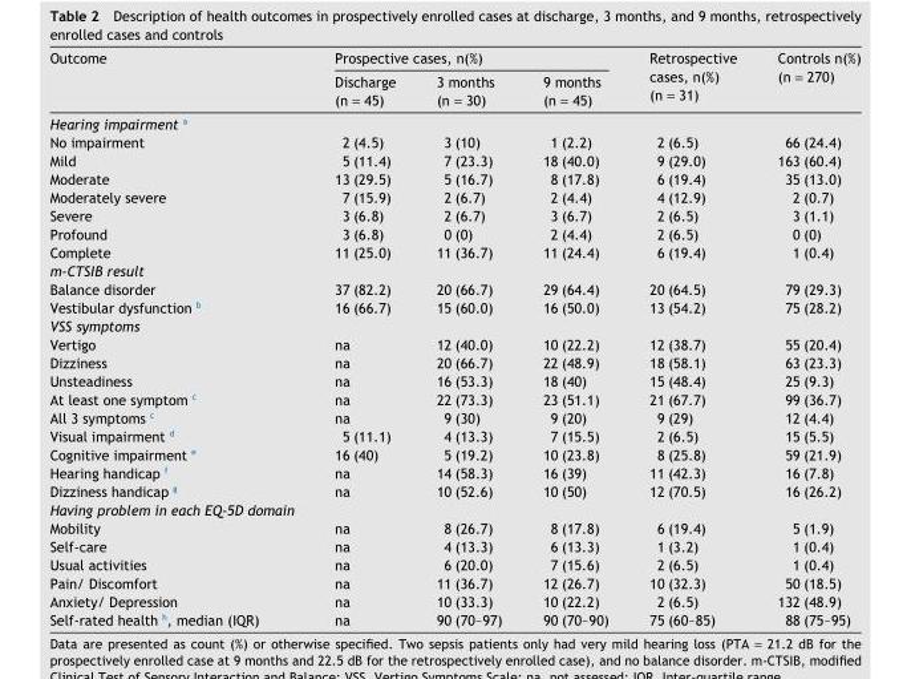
<table><thead><tr><td rowspan="2">Outcome</td><td colspan="3">Prospective cases, n(%)</td><td rowspan="2">Retrospective cases, n(%) (n = 31)</td><td rowspan="2">Controls n(%) (n = 270)</td></tr><tr><td>Discharge (n = 45)</td><td>3 months (n = 30)</td><td>9 months (n = 45)</td></tr></thead><tbody><tr><td colspan="6">Hearing impairment <sup>a</sup></td></tr><tr><td>No impairment</td><td>2 (4.5)</td><td>3 (10)</td><td>1 (2.2)</td><td>2 (6.5)</td><td>66 (24.4)</td></tr><tr><td>Mild</td><td>5 (11.4)</td><td>7 (23.3)</td><td>18 (40.0)</td><td>9 (29.0)</td><td>163 (60.4)</td></tr><tr><td>Moderate</td><td>13 (29.5)</td><td>5 (16.7)</td><td>8 (17.8)</td><td>6 (19.4)</td><td>35 (13.0)</td></tr><tr><td>Moderately severe</td><td>7 (15.9)</td><td>2 (6.7)</td><td>2 (4.4)</td><td>4 (12.9)</td><td>2 (0.7)</td></tr><tr><td>Severe</td><td>3 (6.8)</td><td>2 (6.7)</td><td>3 (6.7)</td><td>2 (6.5)</td><td>3 (1.1)</td></tr><tr><td>Profound</td><td>3 (6.8)</td><td>0 (0)</td><td>2 (4.4)</td><td>2 (6.5)</td><td>0 (0)</td></tr><tr><td>Complete</td><td>11 (25.0)</td><td>11 (36.7)</td><td>11 (24.4)</td><td>6 (19.4)</td><td>1 (0.4)</td></tr><tr><td colspan="6">m-CTSIB result</td></tr><tr><td>Balance disorder</td><td>37 (82.2)</td><td>20 (66.7)</td><td>29 (64.4)</td><td>20 (64.5)</td><td>79 (29.3)</td></tr><tr><td>Vestibular dysfunction b</td><td>16 (66.7)</td><td>15 (60.0)</td><td>16 (50.0)</td><td>13 (54.2)</td><td>75 (28.2)</td></tr><tr><td colspan="6">VSS symptoms</td></tr><tr><td>Vertigo</td><td>na</td><td>12 (40.0)</td><td>10 (22.2)</td><td>12 (38.7)</td><td>55 (20.4)</td></tr><tr><td>Dizziness</td><td>na</td><td>20 (66.7)</td><td>22 (48.9)</td><td>18 (58.1)</td><td>63 (23.3)</td></tr><tr><td>Unsteadiness</td><td>na</td><td>16 (53.3)</td><td>18 (40)</td><td>15 (48.4)</td><td>25 (9.3)</td></tr><tr><td>At least one symptom c</td><td>na</td><td>22 (73.3)</td><td>23 (51.1)</td><td>21 (67.7)</td><td>99 (36.7)</td></tr><tr><td>All 3 symptoms c</td><td>na</td><td>9 (30)</td><td>9 (20)</td><td>9 (29)</td><td>12 (4.4)</td></tr><tr><td>Visual impairment d</td><td>5 (11.1)</td><td>4 (13.3)</td><td>7 (15.5)</td><td>2 (6.5)</td><td>15 (5.5)</td></tr><tr><td>Cognitive impairment e</td><td>16 (40)</td><td>5 (19.2)</td><td>10 (23.8)</td><td>8 (25.8)</td><td>59 (21.9)</td></tr><tr><td>Hearing handicap f</td><td>na</td><td>14 (58.3)</td><td>16 (39)</td><td>11 (42.3)</td><td>16 (7.8)</td></tr><tr><td>Dizziness handicap g</td><td>na</td><td>10 (52.6)</td><td>10 (50)</td><td>12 (70.5)</td><td>16 (26.2)</td></tr><tr><td colspan="6">Having problem in each EQ-5D domain</td></tr><tr><td>Mobility</td><td>na</td><td>8 (26.7)</td><td>8 (17.8)</td><td>6 (19.4)</td><td>5 (1.9)</td></tr><tr><td>Self-care</td><td>na</td><td>4 (13.3)</td><td>6 (13.3)</td><td>1 (3.2)</td><td>1 (0.4)</td></tr><tr><td>Usual activities</td><td>na</td><td>6 (20.0)</td><td>7 (15.6)</td><td>2 (6.5)</td><td>1 (0.4)</td></tr><tr><td>Pain/ Discomfort</td><td>na</td><td>11 (36.7)</td><td>12 (26.7)</td><td>10 (32.3)</td><td>50 (18.5)</td></tr><tr><td>Anxiety/ Depression</td><td>na</td><td>10 (33.3)</td><td>10 (22.2)</td><td>2 (6.5)</td><td>132 (48.9)</td></tr><tr><td>Self-rated health h, median (IQR)</td><td>na</td><td>90 (70–97)</td><td>90 (70–90)</td><td>75 (60–85)</td><td>88 (75–95)</td></tr></tbody></table>